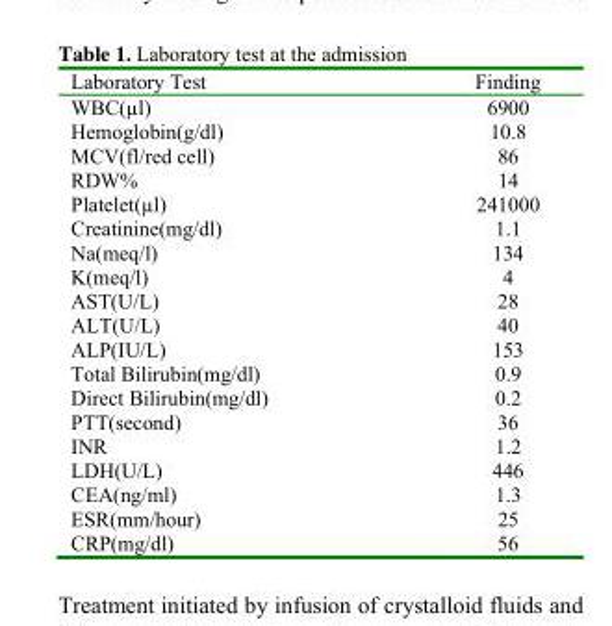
<table><thead><tr><td>Laboratory Test</td><td>Finding</td></tr></thead><tbody><tr><td>WBC(µl)</td><td>6900</td></tr><tr><td>Hemoglobin(g/dl)</td><td>10.8</td></tr><tr><td>MCV(fl/red cell)</td><td>86</td></tr><tr><td>RDW%</td><td>14</td></tr><tr><td>Platelet(µl)</td><td>241000</td></tr><tr><td>Creatinine(mg/dl)</td><td>1.1</td></tr><tr><td>Na(meq/l)</td><td>134</td></tr><tr><td>K(meq/l)</td><td>4</td></tr><tr><td>AST(U/L)</td><td>28</td></tr><tr><td>ALT(U/L)</td><td>40</td></tr><tr><td>ALP(IU/L)</td><td>153</td></tr><tr><td>Total Bilirubin(mg/dl)</td><td>0.9</td></tr><tr><td>Direct Bilirubin(mg/dl)</td><td>0.2</td></tr><tr><td>PTT(second)</td><td>36</td></tr><tr><td>INR</td><td>1.2</td></tr><tr><td>LDH(U/L)</td><td>446</td></tr><tr><td>CEA(ng/ml)</td><td>1.3</td></tr><tr><td>ESR(mm/hour)</td><td>25</td></tr><tr><td>CRP(mg/dl)</td><td>56</td></tr></tbody></table>